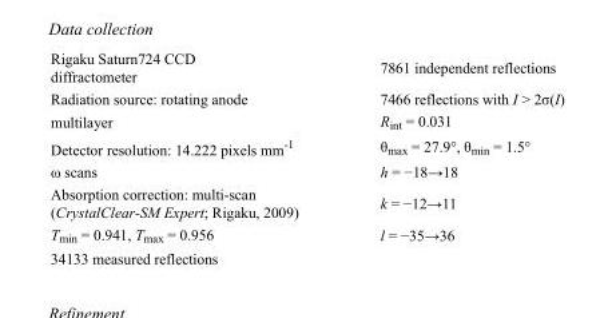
<table><tbody><tr><td>Rigaku Saturn724 CCD diffractometer</td><td>7861 independent reflections</td></tr><tr><td>Radiation source: rotating anode</td><td>7466 reflections with I &gt; 2σ(I)</td></tr><tr><td>multilayer</td><td>R<sub>int</sub> = 0.031</td></tr><tr><td>Detector resolution: 14.222 pixels mm<sup>-1</sup></td><td>θ<sub>max</sub> = 27.9°, θ<sub>min</sub> = 1.5°</td></tr><tr><td>ω scans</td><td>h = −18→18</td></tr><tr><td>Absorption correction: multi-scan (CrystalClear-SM Expert; Rigaku, 2009)</td><td>k = −12→11</td></tr><tr><td>T<sub>min</sub> = 0.941, T<sub>max</sub> = 0.956</td><td>l = −35→36</td></tr><tr><td>34133 measured reflections</td><td></td></tr></tbody></table>